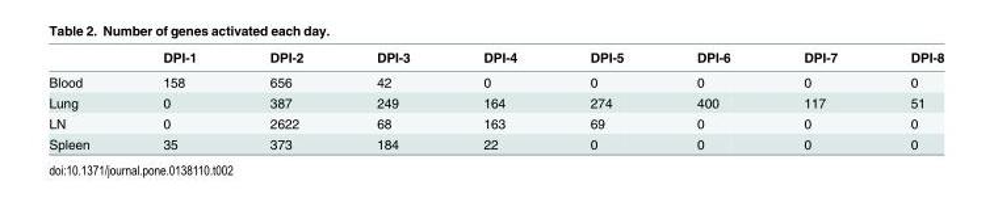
<table><thead><tr><td></td><td>DPI-1</td><td>DPI-2</td><td>DPI-3</td><td>DPI-4</td><td>DPI-5</td><td>DPI-6</td><td>DPI-7</td><td>DPI-8</td></tr></thead><tbody><tr><td>Blood</td><td>158</td><td>656</td><td>42</td><td>0</td><td>0</td><td>0</td><td>0</td><td>0</td></tr><tr><td>Lung</td><td>0</td><td>387</td><td>249</td><td>164</td><td>274</td><td>400</td><td>117</td><td>51</td></tr><tr><td>LN</td><td>0</td><td>2622</td><td>68</td><td>163</td><td>69</td><td>0</td><td>0</td><td>0</td></tr><tr><td>Spleen</td><td>35</td><td>373</td><td>184</td><td>22</td><td>0</td><td>0</td><td>0</td><td>0</td></tr></tbody></table>